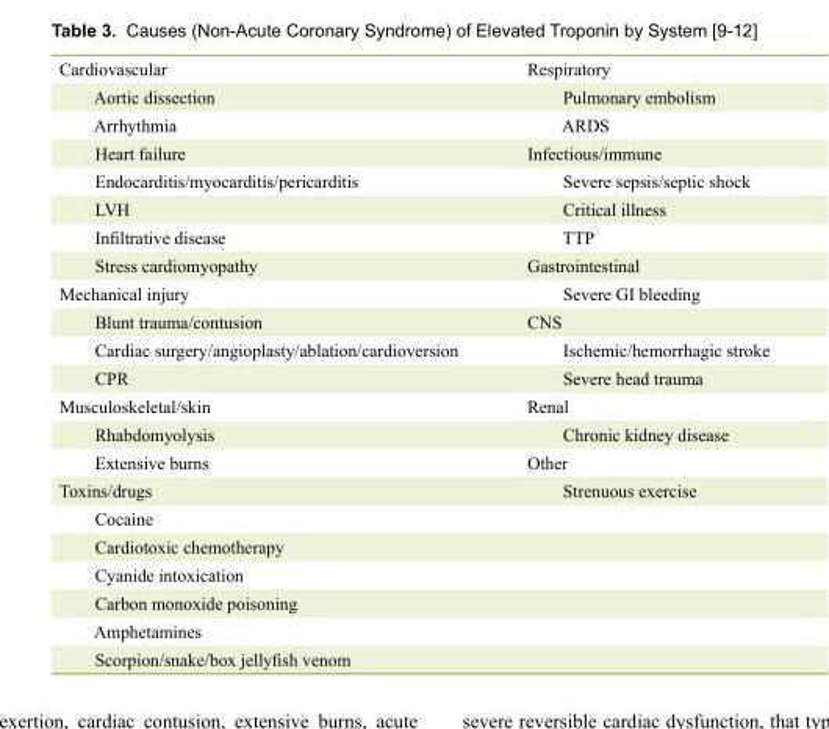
<table><tbody><tr><td>Cardiovascular</td><td>Respiratory</td></tr><tr><td>Aortic dissection</td><td>Pulmonary embolism</td></tr><tr><td>Arrhythmia</td><td>ARDS</td></tr><tr><td>Heart failure</td><td>Infectious/immune</td></tr><tr><td>Endocarditis/myocarditis/pericarditis</td><td>Severe sepsis/septic shock</td></tr><tr><td>LVH</td><td>Critical illness</td></tr><tr><td>Infiltrative disease</td><td>TTP</td></tr><tr><td>Stress cardiomyopathy</td><td>Gastrointestinal</td></tr><tr><td>Mechanical injury</td><td>Severe GI bleeding</td></tr><tr><td>Blunt trauma/contusion</td><td>CNS</td></tr><tr><td>Cardiac surgery/angioplasty/ablation/cardioversion</td><td>Ischemic/hemorrhagic stroke</td></tr><tr><td>CPR</td><td>Severe head trauma</td></tr><tr><td>Musculoskeletal/skin</td><td>Renal</td></tr><tr><td>Rhabdomyolysis</td><td>Chronic kidney disease</td></tr><tr><td>Extensive burns</td><td>Other</td></tr><tr><td>Toxins/drugs</td><td>Strenuous exercise</td></tr><tr><td colspan="2">Cocaine</td></tr><tr><td colspan="2">Cardiotoxic chemotherapy</td></tr><tr><td colspan="2">Cyanide intoxication</td></tr><tr><td colspan="2">Carbon monoxide poisoning</td></tr><tr><td colspan="2">Amphetamines</td></tr><tr><td>Scorpion/snake/box jellyfish venom</td><td></td></tr></tbody></table>